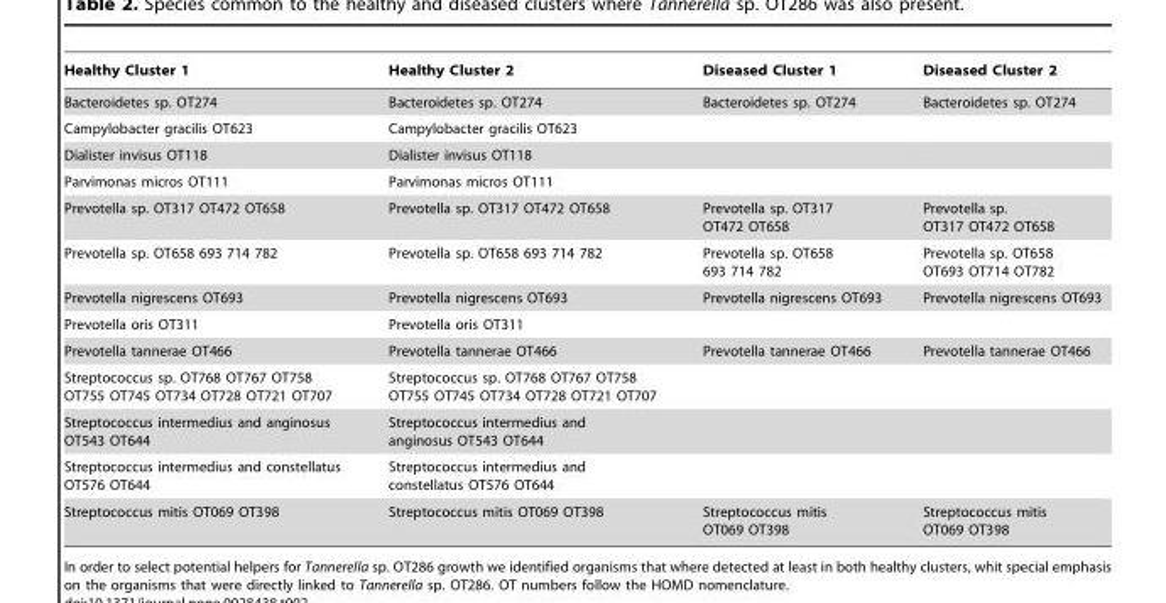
<table><thead><tr><td>Healthy Cluster 1</td><td>Healthy Cluster 2</td><td>Diseased Cluster 1</td><td>Diseased Cluster 2</td></tr></thead><tbody><tr><td>Bacteroidetes sp. OT274</td><td>Bacteroidetes sp. OT274</td><td>Bacteroidetes sp. OT274</td><td>Bacteroidetes sp. OT274</td></tr><tr><td>Campylobacter gracilis OT623</td><td>Campylobacter gracilis OT623</td><td></td><td></td></tr><tr><td>Dialister invisus OT118</td><td>Dialister invisus OT118</td><td></td><td></td></tr><tr><td>Parvimonas micros OT111</td><td>Parvimonas micros OT111</td><td></td><td></td></tr><tr><td>Prevotella sp. OT317 OT472 OT658</td><td>Prevotella sp. OT317 OT472 OT658</td><td>Prevotella sp. OT317 OT472 OT658</td><td>Prevotella sp. OT317 OT472 OT658</td></tr><tr><td>Prevotella sp. OT658 693 714 782</td><td>Prevotella sp. OT658 693 714 782</td><td>Prevotella sp. OT658 693 714 782</td><td>Prevotella sp. OT658 OT693 OT714 OT782</td></tr><tr><td>Prevotella nigrescens OT693</td><td>Prevotella nigrescens OT693</td><td>Prevotella nigrescens OT693</td><td>Prevotella nigrescens OT693</td></tr><tr><td>Prevotella oris OT311</td><td>Prevotella oris OT311</td><td></td><td></td></tr><tr><td>Prevotella tannerae OT466</td><td>Prevotella tannerae OT466</td><td>Prevotella tannerae OT466</td><td>Prevotella tannerae OT466</td></tr><tr><td>Streptococcus sp. OT768 OT767 OT758 OT755 OT745 OT734 OT728 OT721 OT707</td><td>Streptococcus sp. OT768 OT767 OT758 OT755 OT745 OT734 OT728 OT721 OT707</td><td></td><td></td></tr><tr><td>Streptococcus intermedius and anginosus OT543 OT644</td><td>Streptococcus intermedius and anginosus OT543 OT644</td><td></td><td></td></tr><tr><td>Streptococcus intermedius and constellatus OT576 OT644</td><td>Streptococcus intermedius and constellatus OT576 OT644</td><td></td><td></td></tr><tr><td>Streptococcus mitis OT069 OT398</td><td>Streptococcus mitis OT069 OT398</td><td>Streptococcus mitis OT069 OT398</td><td>Streptococcus mitis OT069 OT398</td></tr></tbody></table>